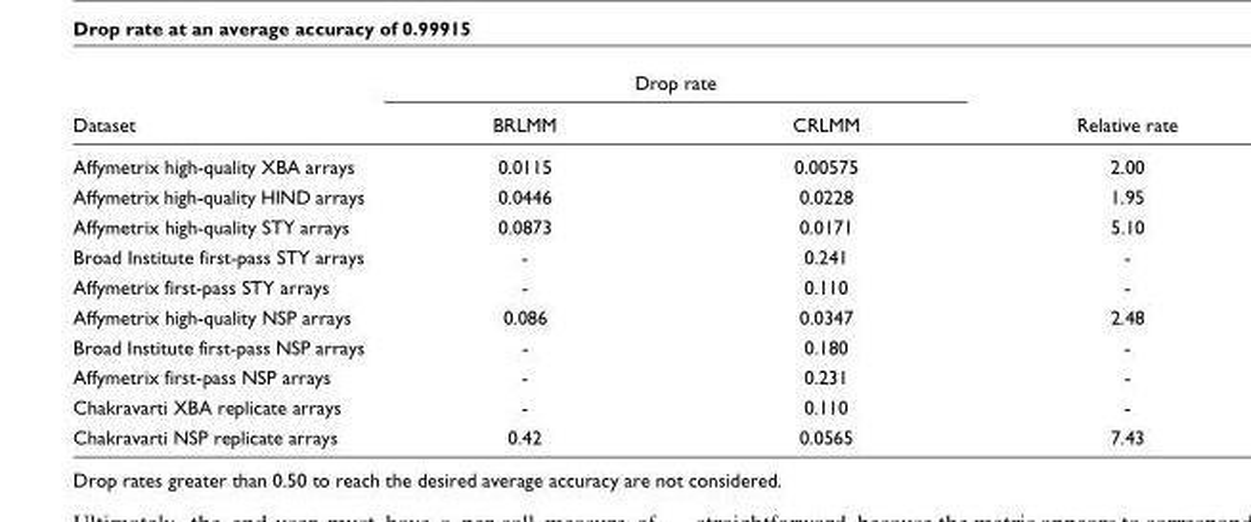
<table><thead><tr><td rowspan="2">Dataset</td><td colspan="2">Drop rate</td><td rowspan="2">Relative rate</td></tr><tr><td>BRLMM</td><td>CRLMM</td></tr></thead><tbody><tr><td>Affymetrix high-quality XBA arrays</td><td>0.0115</td><td>0.00575</td><td>2.00</td></tr><tr><td>Affymetrix high-quality HIND arrays</td><td>0.0446</td><td>0.0228</td><td>1.95</td></tr><tr><td>Affymetrix high-quality STY arrays</td><td>0.0873</td><td>0.0171</td><td>5.10</td></tr><tr><td>Broad Institute first-pass STY arrays</td><td>-</td><td>0.241</td><td>-</td></tr><tr><td>Affymetrix first-pass STY arrays</td><td>-</td><td>0.110</td><td>-</td></tr><tr><td>Affymetrix high-quality NSP arrays</td><td>0.086</td><td>0.0347</td><td>2.48</td></tr><tr><td>Broad Institute first-pass NSP arrays</td><td>-</td><td>0.180</td><td>-</td></tr><tr><td>Affymetrix first-pass NSP arrays</td><td>-</td><td>0.231</td><td>-</td></tr><tr><td>Chakravarti XBA replicate arrays</td><td>-</td><td>0.110</td><td>-</td></tr><tr><td>Chakravarti NSP replicate arrays</td><td>0.42</td><td>0.0565</td><td>7.43</td></tr></tbody></table>